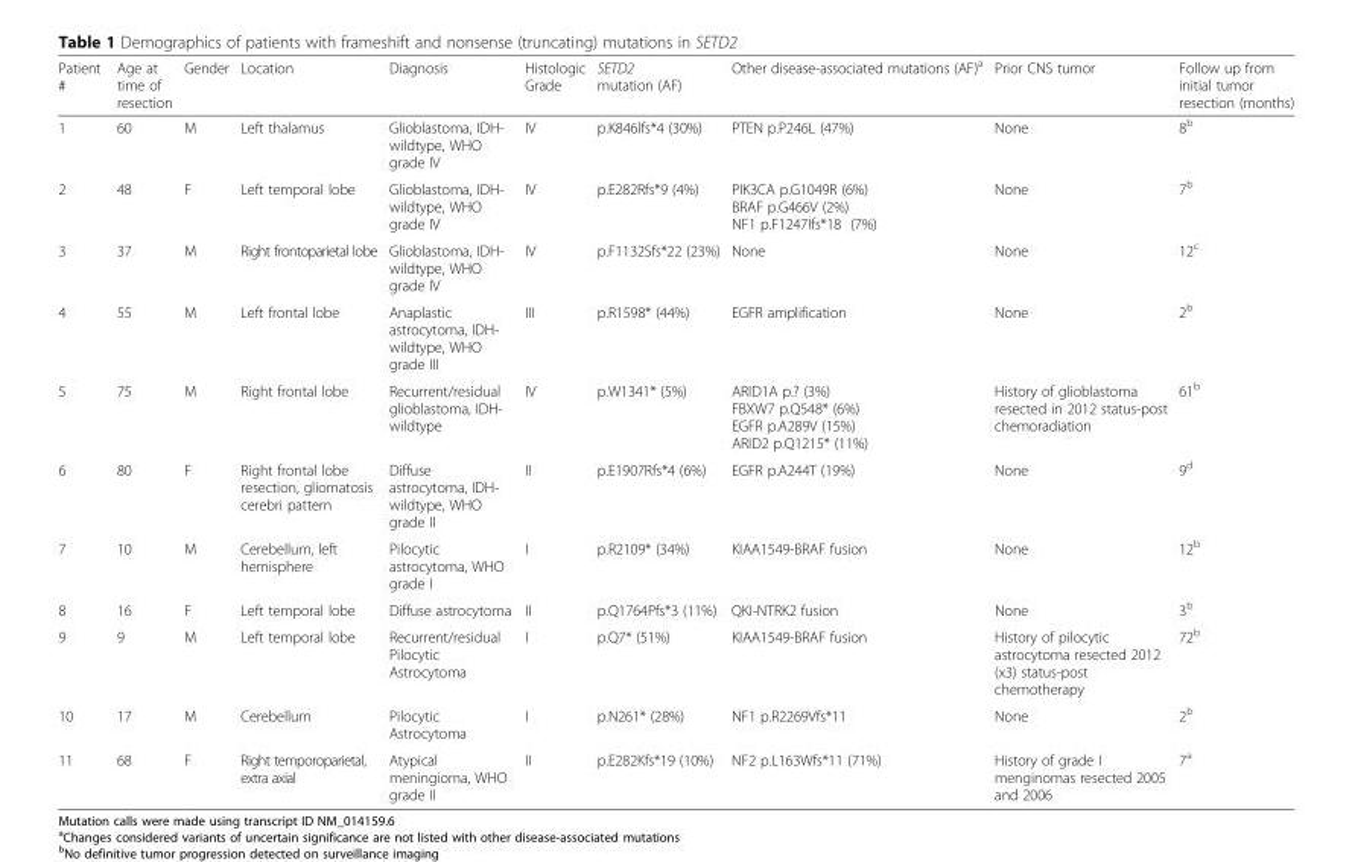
<table><thead><tr><td>Patient #</td><td>Age at time of resection</td><td>Gender</td><td>Location</td><td>Diagnosis</td><td>Histologic Grade</td><td>SETD2 mutation (AF)</td><td>Other disease-associated mutations (AF)<sup>a</sup></td><td>Prior CNS tumor</td><td>Follow up from initial tumor resection (months)</td></tr></thead><tbody><tr><td>1</td><td>60</td><td>M</td><td>Left thalamus</td><td>Glioblastoma, IDH- wildtype, WHO grade IV</td><td>IV</td><td>p.K846lfs*4 (30%)</td><td>PTEN p.P246L (47%)</td><td>None</td><td>8<sup>b</sup></td></tr><tr><td>2</td><td>48</td><td>F</td><td>Left temporal lobe</td><td>Glioblastoma, IDH- wildtype, WHO grade IV</td><td>IV</td><td>p.E282Rfs*9 (4%)</td><td>PIK3CA p.G1049R (6%) BRAF p.G466V (2%) NF1 p.F1247Ifs*18 (7%)</td><td>None</td><td>7<sup>b</sup></td></tr><tr><td>3</td><td>37</td><td>M</td><td>Right frontoparietal lobe</td><td>Glioblastoma, IDH- wildtype, WHO grade IV</td><td>IV</td><td>p.F1132Sfs*22 (23%)</td><td>None</td><td>None</td><td>12<sup>c</sup></td></tr><tr><td>4</td><td>55</td><td>M</td><td>Left frontal lobe</td><td>Anaplastic astrocytoma, IDH- wildtype, WHO grade III</td><td>III</td><td>p.R1598* (44%)</td><td>EGFR amplification</td><td>None</td><td>2<sup>b</sup></td></tr><tr><td>5</td><td>75</td><td>M</td><td>Right frontal lobe</td><td>Recurrent/residual glioblastoma, IDH- wildtype</td><td>IV</td><td>p.W1341* (5%)</td><td>ARID1A p.? (3%) FBXW7 p.Q548* (6%) EGFR p.A289V (15%) ARID2 p.Q1215* (11%)</td><td>History of glioblastoma resected in 2012 status-post chemoradiation</td><td>61<sup>b</sup></td></tr><tr><td>6</td><td>80</td><td>F</td><td>Right frontal lobe resection, gliomatosis cerebri pattern</td><td>Diffuse astrocytoma, IDH- wildtype, WHO grade II</td><td>II</td><td>p.E1907Rfs*4 (6%)</td><td>EGFR p.A244T (19%)</td><td>None</td><td>9<sup>d</sup></td></tr><tr><td>7</td><td>10</td><td>M</td><td>Cerebellum, left hemisphere</td><td>Pilocytic astrocytoma, WHO grade I</td><td>I</td><td>p.R2109* (34%)</td><td>KIAA1549-BRAF fusion</td><td>None</td><td>12<sup>b</sup></td></tr><tr><td>8</td><td>16</td><td>F</td><td>Left temporal lobe</td><td>Diffuse astrocytoma</td><td>II</td><td>p.Q1764Pfs*3 (11%)</td><td>QKI-NTRK2 fusion</td><td>None</td><td>3<sup>b</sup></td></tr><tr><td>9</td><td>9</td><td>M</td><td>Left temporal lobe</td><td>Recurrent/residual Pilocytic Astrocytoma</td><td>I</td><td>p.Q7* (51%)</td><td>KIAA1549-BRAF fusion</td><td>History of pilocytic astrocytoma resected 2012 (x3) status-post chemotherapy</td><td>72<sup>b</sup></td></tr><tr><td>10</td><td>17</td><td>M</td><td>Cerebellum</td><td>Pilocytic Astrocytoma</td><td>I</td><td>p.N261* (28%)</td><td>NF1 p.R2269Vfs*11</td><td>None</td><td>2<sup>b</sup></td></tr><tr><td>11</td><td>68</td><td>F</td><td>Right temporoparietal, extra axial</td><td>Atypical meningioma, WHO grade II</td><td>II</td><td>p.E282Kfs*19 (10%)</td><td>NF2 p.L163Wfs*11 (71%)</td><td>History of grade I menginomas resected 2005 and 2006</td><td>7<sup>a</sup></td></tr></tbody></table>